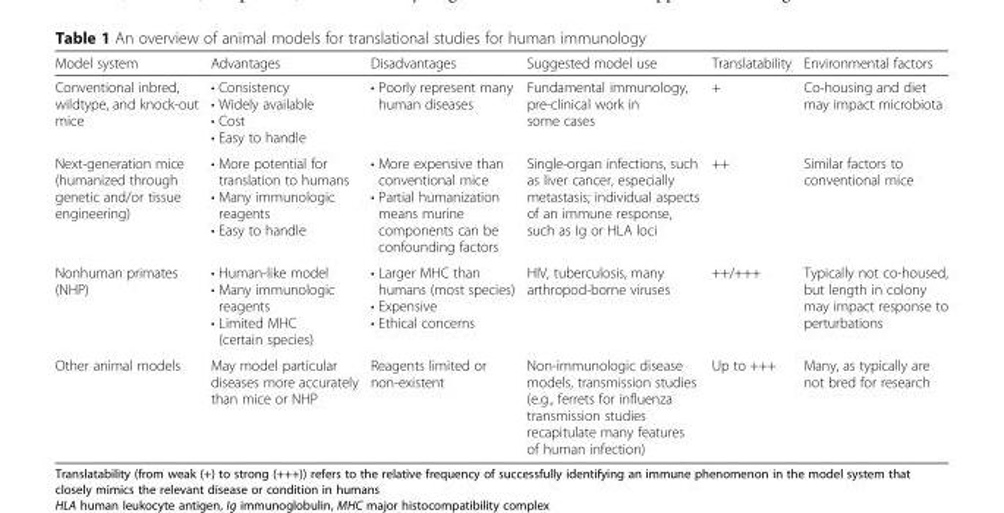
<table><thead><tr><td>Model system</td><td>Advantages</td><td>Disadvantages</td><td>Suggested model use</td><td>Translatability</td><td>Environmental factors</td></tr></thead><tbody><tr><td>Conventional inbred, wildtype, and knock-out mice</td><td>• Consistency • Widely available • Cost • Easy to handle</td><td>• Poorly represent many human diseases</td><td>Fundamental immunology, pre-clinical work in some cases</td><td>+</td><td>Co-housing and diet may impact microbiota</td></tr><tr><td>Next-generation mice (humanized through genetic and/or tissue engineering)</td><td>• More potential for translation to humans • Many immunologic reagents • Easy to handle</td><td>• More expensive than conventional mice • Partial humanization means murine components can be confounding factors</td><td>Single-organ infections, such as liver cancer, especially metastasis; individual aspects of an immune response, such as Ig or HLA loci</td><td>++</td><td>Similar factors to conventional mice</td></tr><tr><td>Nonhuman primates (NHP)</td><td>• Human-like model • Many immunologic reagents • Limited MHC (certain species)</td><td>• Larger MHC than humans (most species) • Expensive • Ethical concerns</td><td>HIV, tuberculosis, many arthropod-borne viruses</td><td>++/+++</td><td>Typically not co-housed, but length in colony may impact response to perturbations</td></tr><tr><td>Other animal models</td><td>May model particular diseases more accurately than mice or NHP</td><td>Reagents limited or non-existent</td><td>Non-immunologic disease models, transmission studies (e.g., ferrets for influenza transmission studies recapitulate many features of human infection)</td><td>Up to +++</td><td>Many, as typically are not bred for research</td></tr></tbody></table>